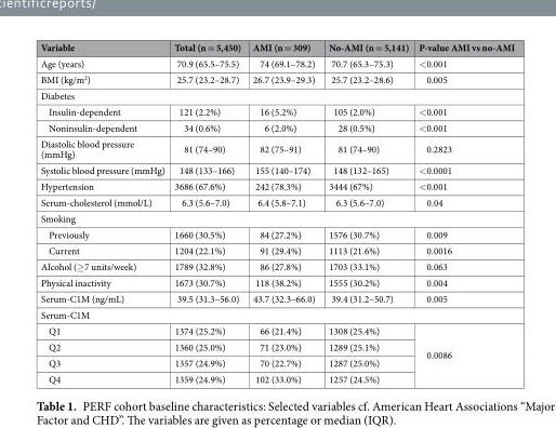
<table><thead><tr><td>Variable</td><td>Total (n = 5,450)</td><td>AMI (n = 309)</td><td>No-AMI (n = 5,141)</td><td>P-value AMI vs no-AMI</td></tr></thead><tbody><tr><td>Age (years)</td><td>70.9 (65.5–75.5)</td><td>74 (69.1–78.2)</td><td>70.7 (65.3–75.3)</td><td>&lt;0.001</td></tr><tr><td>BMI (kg/m<sup>2</sup>)</td><td>25.7 (23.2–28.7)</td><td>26.7 (23.9–29.3)</td><td>25.7 (23.2–28.6)</td><td>0.005</td></tr><tr><td colspan="5">Diabetes</td></tr><tr><td>Insulin-dependent</td><td>121 (2.2%)</td><td>16 (5.2%)</td><td>105 (2.0%)</td><td>&lt;0.001</td></tr><tr><td>Noninsulin-dependent</td><td>34 (0.6%)</td><td>6 (2.0%)</td><td>28 (0.5%)</td><td>&lt;0.001</td></tr><tr><td>Diastolic blood pressure (mmHg)</td><td>81 (74–90)</td><td>82 (75–91)</td><td>81 (74–90)</td><td>0.2823</td></tr><tr><td>Systolic blood pressure (mmHg)</td><td>148 (133–166)</td><td>155 (140–174)</td><td>148 (132–165)</td><td>&lt;0.0001</td></tr><tr><td>Hypertension</td><td>3686 (67.6%)</td><td>242 (78.3%)</td><td>3444 (67%)</td><td>&lt;0.001</td></tr><tr><td>Serum-cholesterol (mmol/L)</td><td>6.3 (5.6–7.0)</td><td>6.4 (5.8–7.1)</td><td>6.3 (5.6–7.0)</td><td>0.04</td></tr><tr><td colspan="5">Smoking</td></tr><tr><td>Previously</td><td>1660 (30.5%)</td><td>84 (27.2%)</td><td>1576 (30.7%)</td><td>0.009</td></tr><tr><td>Current</td><td>1204 (22.1%)</td><td>91 (29.4%)</td><td>1113 (21.6%)</td><td>0.0016</td></tr><tr><td>Alcohol (≥7 units/week)</td><td>1789 (32.8%)</td><td>86 (27.8%)</td><td>1703 (33.1%)</td><td>0.063</td></tr><tr><td>Physical inactivity</td><td>1673 (30.7%)</td><td>118 (38.2%)</td><td>1555 (30.2%)</td><td>0.004</td></tr><tr><td>Serum-C1M (ng/mL)</td><td>39.5 (31.3–56.0)</td><td>43.7 (32.3–66.0)</td><td>39.4 (31.2–50.7)</td><td>0.005</td></tr><tr><td colspan="5">Serum-C1M</td></tr><tr><td>Q1</td><td>1374 (25.2%)</td><td>66 (21.4%)</td><td>1308 (25.4%)</td><td rowspan="4">0.0086</td></tr><tr><td>Q2</td><td>1360 (25.0%)</td><td>71 (23.0%)</td><td>1289 (25.1%)</td></tr><tr><td>Q3</td><td>1357 (24.9%)</td><td>70 (22.7%)</td><td>1287 (25.0%)</td></tr><tr><td>Q4</td><td>1359 (24.9%)</td><td>102 (33.0%)</td><td>1257 (24.5%)</td></tr></tbody></table>